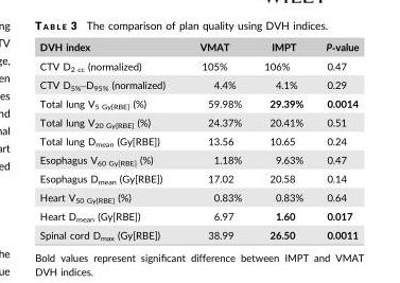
<table><thead><tr><td>DVH index</td><td>VMAT</td><td>IMPT</td><td>P‐value</td></tr></thead><tbody><tr><td>CTV D<sub>2 cc</sub> (normalized)</td><td>105%</td><td>106%</td><td>0.47</td></tr><tr><td>CTV D<sub>5%</sub>–D<sub>95%</sub> (normalized)</td><td>4.4%</td><td>4.1%</td><td>0.29</td></tr><tr><td>Total lung V<sub>5 Gy[RBE]</sub> (%)</td><td>59.98%</td><td>29.39%</td><td>0.0014</td></tr><tr><td>Total lung V<sub>20 Gy[RBE]</sub> (%)</td><td>24.37%</td><td>20.41%</td><td>0.51</td></tr><tr><td>Total lung D<sub>mean</sub> (Gy[RBE])</td><td>13.56</td><td>10.65</td><td>0.24</td></tr><tr><td>Esophagus V<sub>60 Gy[RBE]</sub> (%)</td><td>1.18%</td><td>9.63%</td><td>0.47</td></tr><tr><td>Esophagus D<sub>mean</sub> (Gy[RBE])</td><td>17.02</td><td>20.58</td><td>0.14</td></tr><tr><td>Heart V<sub>50 Gy[RBE]</sub> (%)</td><td>0.83%</td><td>0.83%</td><td>0.64</td></tr><tr><td>Heart D<sub>mean</sub> (Gy[RBE])</td><td>6.97</td><td>1.60</td><td>0.017</td></tr><tr><td>Spinal cord D<sub>max</sub> (Gy[RBE])</td><td>38.99</td><td>26.50</td><td>0.0011</td></tr></tbody></table>